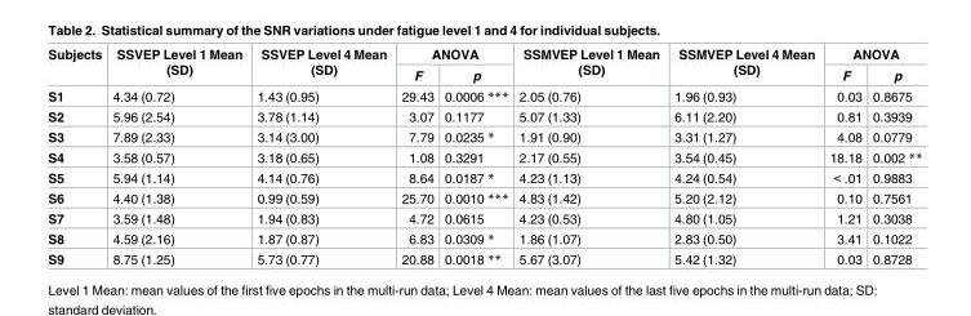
<table><thead><tr><td rowspan="2">Subjects</td><td rowspan="2">SSVEP Level 1 Mean (SD)</td><td rowspan="2">SSVEP Level 4 Mean (SD)</td><td colspan="2">ANOVA</td><td rowspan="2">SSMVEP Level 1 Mean (SD)</td><td rowspan="2">SSMVEP Level 4 Mean (SD)</td><td colspan="2">ANOVA</td></tr><tr><td>F</td><td>p</td><td>F</td><td>p</td></tr></thead><tbody><tr><td>S1</td><td>4.34 (0.72)</td><td>1.43 (0.95)</td><td>29.43</td><td>0.0006 ***</td><td>2.05 (0.76)</td><td>1.96 (0.93)</td><td>0.03</td><td>0.8675</td></tr><tr><td>S2</td><td>5.96 (2.54)</td><td>3.78 (1.14)</td><td>3.07</td><td>0.1177</td><td>5.07 (1.33)</td><td>6.11 (2.20)</td><td>0.81</td><td>0.3939</td></tr><tr><td>S3</td><td>7.89 (2.33)</td><td>3.14 (3.00)</td><td>7.79</td><td>0.0235 *</td><td>1.91 (0.90)</td><td>3.31 (1.27)</td><td>4.08</td><td>0.0779</td></tr><tr><td>S4</td><td>3.58 (0.57)</td><td>3.18 (0.65)</td><td>1.08</td><td>0.3291</td><td>2.17 (0.55)</td><td>3.54 (0.45)</td><td>18.18</td><td>0.002 **</td></tr><tr><td>S5</td><td>5.94 (1.14)</td><td>4.14 (0.76)</td><td>8.64</td><td>0.0187 *</td><td>4.23 (1.13)</td><td>4.24 (0.54)</td><td>&lt; .01</td><td>0.9883</td></tr><tr><td>S6</td><td>4.40 (1.38)</td><td>0.99 (0.59)</td><td>25.70</td><td>0.0010 ***</td><td>4.83 (1.42)</td><td>5.20 (2.12)</td><td>0.10</td><td>0.7561</td></tr><tr><td>S7</td><td>3.59 (1.48)</td><td>1.94 (0.83)</td><td>4.72</td><td>0.0615</td><td>4.23 (0.53)</td><td>4.80 (1.05)</td><td>1.21</td><td>0.3038</td></tr><tr><td>S8</td><td>4.59 (2.16)</td><td>1.87 (0.87)</td><td>6.83</td><td>0.0309 *</td><td>1.86 (1.07)</td><td>2.83 (0.50)</td><td>3.41</td><td>0.1022</td></tr><tr><td>S9</td><td>8.75 (1.25)</td><td>5.73 (0.77)</td><td>20.88</td><td>0.0018 **</td><td>5.67 (3.07)</td><td>5.42 (1.32)</td><td>0.03</td><td>0.8728</td></tr></tbody></table>